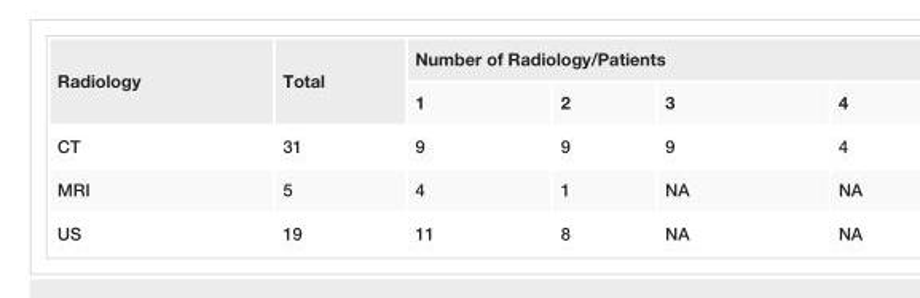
<table><tbody><tr><td rowspan="2">Radiology</td><td rowspan="2">Total</td><td colspan="4">Number of Radiology/Patients</td></tr><tr><td>1</td><td>2</td><td>3</td><td>4</td></tr><tr><td>CT</td><td>31</td><td>9</td><td>9</td><td>9</td><td>4</td></tr><tr><td>MRI</td><td>5</td><td>4</td><td>1</td><td>NA</td><td>NA</td></tr><tr><td>US</td><td>19</td><td>11</td><td>8</td><td>NA</td><td>NA</td></tr></tbody></table>